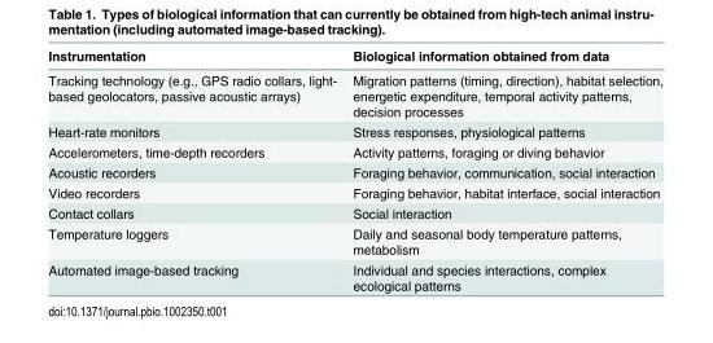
<table><thead><tr><td>Instrumentation</td><td>Biological information obtained from data</td></tr></thead><tbody><tr><td>Tracking technology (e.g., GPS radio collars, light- based geolocators, passive acoustic arrays)</td><td>Migration patterns (timing, direction), habitat selection, energetic expenditure, temporal activity patterns, decision processes</td></tr><tr><td>Heart-rate monitors</td><td>Stress responses, physiological patterns</td></tr><tr><td>Accelerometers, time-depth recorders</td><td>Activity patterns, foraging or diving behavior</td></tr><tr><td>Acoustic recorders</td><td>Foraging behavior, communication, social interaction</td></tr><tr><td>Video recorders</td><td>Foraging behavior, habitat interface, social interaction</td></tr><tr><td>Contact collars</td><td>Social interaction</td></tr><tr><td>Temperature loggers</td><td>Daily and seasonal body temperature patterns, metabolism</td></tr><tr><td>Automated image-based tracking</td><td>Individual and species interactions, complex ecological patterns</td></tr></tbody></table>